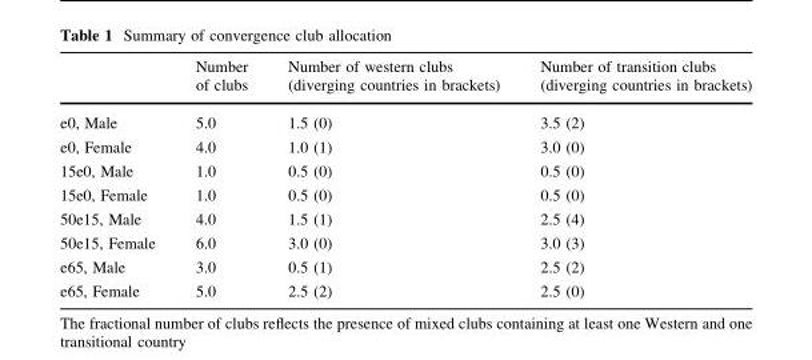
<table><thead><tr><td></td><td>Number of clubs</td><td>Number of western clubs (diverging countries in brackets)</td><td>Number of transition clubs (diverging countries in brackets)</td></tr></thead><tbody><tr><td>e0, Male</td><td>5.0</td><td>1.5 (0)</td><td>3.5 (2)</td></tr><tr><td>e0, Female</td><td>4.0</td><td>1.0 (1)</td><td>3.0 (0)</td></tr><tr><td>15e0, Male</td><td>1.0</td><td>0.5 (0)</td><td>0.5 (0)</td></tr><tr><td>15e0, Female</td><td>1.0</td><td>0.5 (0)</td><td>0.5 (0)</td></tr><tr><td>50e15, Male</td><td>4.0</td><td>1.5 (1)</td><td>2.5 (4)</td></tr><tr><td>50e15, Female</td><td>6.0</td><td>3.0 (0)</td><td>3.0 (3)</td></tr><tr><td>e65, Male</td><td>3.0</td><td>0.5 (1)</td><td>2.5 (2)</td></tr><tr><td>e65, Female</td><td>5.0</td><td>2.5 (2)</td><td>2.5 (0)</td></tr></tbody></table>